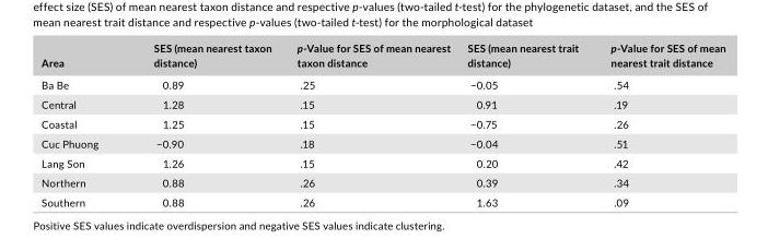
<table><thead><tr><td>Area</td><td>SES (mean nearest taxon distance)</td><td>p- Value for SES of mean nearest taxon distance</td><td>SES (mean nearest trait distance)</td><td>p- Value for SES of mean nearest trait distance</td></tr></thead><tbody><tr><td>Ba Be</td><td>0.89</td><td>.25</td><td>−0.05</td><td>.54</td></tr><tr><td>Central</td><td>1.28</td><td>.15</td><td>0.91</td><td>.19</td></tr><tr><td>Coastal</td><td>1.25</td><td>.15</td><td>−0.75</td><td>.26</td></tr><tr><td>Cuc Phuong</td><td>−0.90</td><td>.18</td><td>−0.04</td><td>.51</td></tr><tr><td>Lang Son</td><td>1.26</td><td>.15</td><td>0.20</td><td>.42</td></tr><tr><td>Northern</td><td>0.88</td><td>.26</td><td>0.39</td><td>.34</td></tr><tr><td>Southern</td><td>0.88</td><td>.26</td><td>1.63</td><td>.09</td></tr></tbody></table>